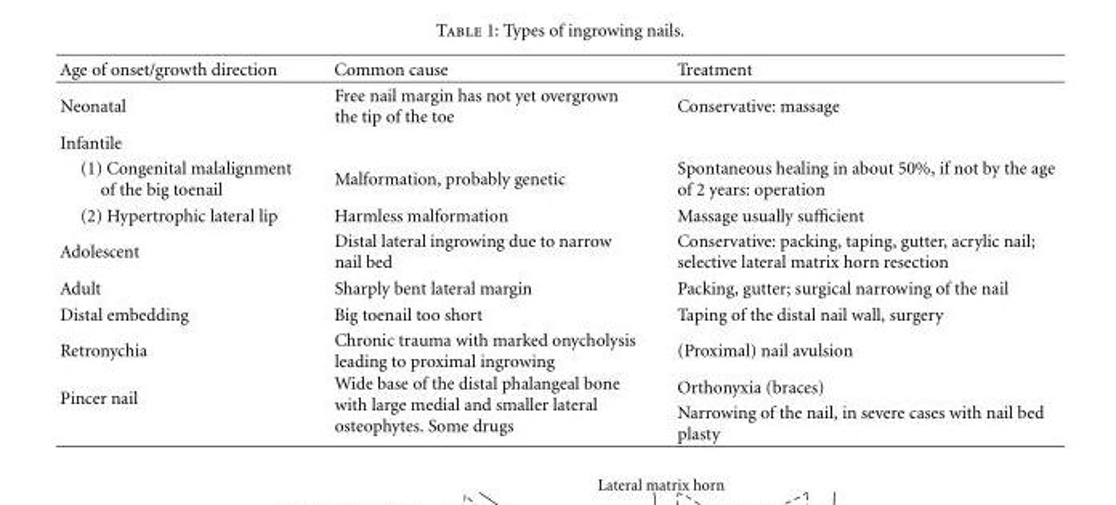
<table><thead><tr><td>Age of onset/growth direction</td><td>Common cause</td><td>Treatment</td></tr></thead><tbody><tr><td>Neonatal</td><td>Free nail margin has not yet overgrown the tip of the toe</td><td>Conservative: massage</td></tr><tr><td colspan="3">Infantile</td></tr><tr><td>(1) Congenital malalignment of the big toenail</td><td>Malformation, probably genetic</td><td>Spontaneous healing in about 50%, if not by the age of 2 years: operation</td></tr><tr><td>(2) Hypertrophic lateral lip</td><td>Harmless malformation</td><td>Massage usually sufficient</td></tr><tr><td>Adolescent</td><td>Distal lateral ingrowing due to narrow nail bed</td><td>Conservative: packing, taping, gutter, acrylic nail; selective lateral matrix horn resection</td></tr><tr><td>Adult</td><td>Sharply bent lateral margin</td><td>Packing, gutter; surgical narrowing of the nail</td></tr><tr><td>Distal embedding</td><td>Big toenail too short</td><td>Taping of the distal nail wall, surgery</td></tr><tr><td>Retronychia</td><td>Chronic trauma with marked onycholysis leading to proximal ingrowing</td><td>(Proximal) nail avulsion</td></tr><tr><td rowspan="2">Pincer nail</td><td rowspan="2">Wide base of the distal phalangeal bone with large medial and smaller lateral osteophytes. Some drugs</td><td>Orthonyxia (braces)</td></tr><tr><td>Narrowing of the nail, in severe cases with nail bed plasty</td></tr></tbody></table>